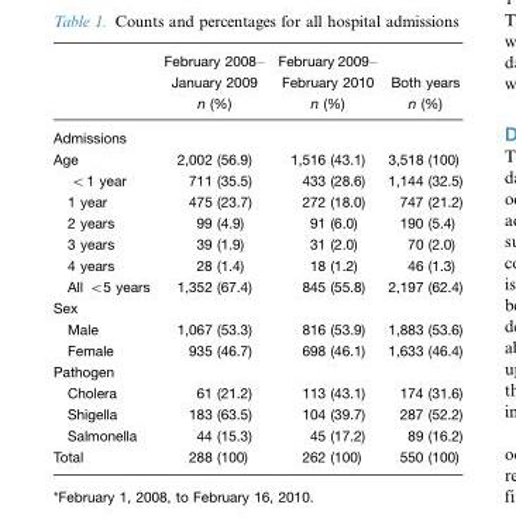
<table><thead><tr><td></td><td>February 2008– January 2009 n (%)</td><td>February 2009– February 2010 n (%)</td><td>Both years n (%)</td></tr></thead><tbody><tr><td colspan="4">Admissions</td></tr><tr><td>Age</td><td>2,002 (56.9)</td><td>1,516 (43.1)</td><td>3,518 (100)</td></tr><tr><td>&lt;1 year</td><td>711 (35.5)</td><td>433 (28.6)</td><td>1,144 (32.5)</td></tr><tr><td>1 year</td><td>475 (23.7)</td><td>272 (18.0)</td><td>747 (21.2)</td></tr><tr><td>2 years</td><td>99 (4.9)</td><td>91 (6.0)</td><td>190 (5.4)</td></tr><tr><td>3 years</td><td>39 (1.9)</td><td>31 (2.0)</td><td>70 (2.0)</td></tr><tr><td>4 years</td><td>28 (1.4)</td><td>18 (1.2)</td><td>46 (1.3)</td></tr><tr><td>All &lt;5 years</td><td>1,352 (67.4)</td><td>845 (55.8)</td><td>2,197 (62.4)</td></tr><tr><td colspan="4">Sex</td></tr><tr><td>Male</td><td>1,067 (53.3)</td><td>816 (53.9)</td><td>1,883 (53.6)</td></tr><tr><td>Female</td><td>935 (46.7)</td><td>698 (46.1)</td><td>1,633 (46.4)</td></tr><tr><td colspan="4">Pathogen</td></tr><tr><td>Cholera</td><td>61 (21.2)</td><td>113 (43.1)</td><td>174 (31.6)</td></tr><tr><td>Shigella</td><td>183 (63.5)</td><td>104 (39.7)</td><td>287 (52.2)</td></tr><tr><td>Salmonella</td><td>44 (15.3)</td><td>45 (17.2)</td><td>89 (16.2)</td></tr><tr><td>Total</td><td>288 (100)</td><td>262 (100)</td><td>550 (100)</td></tr></tbody></table>